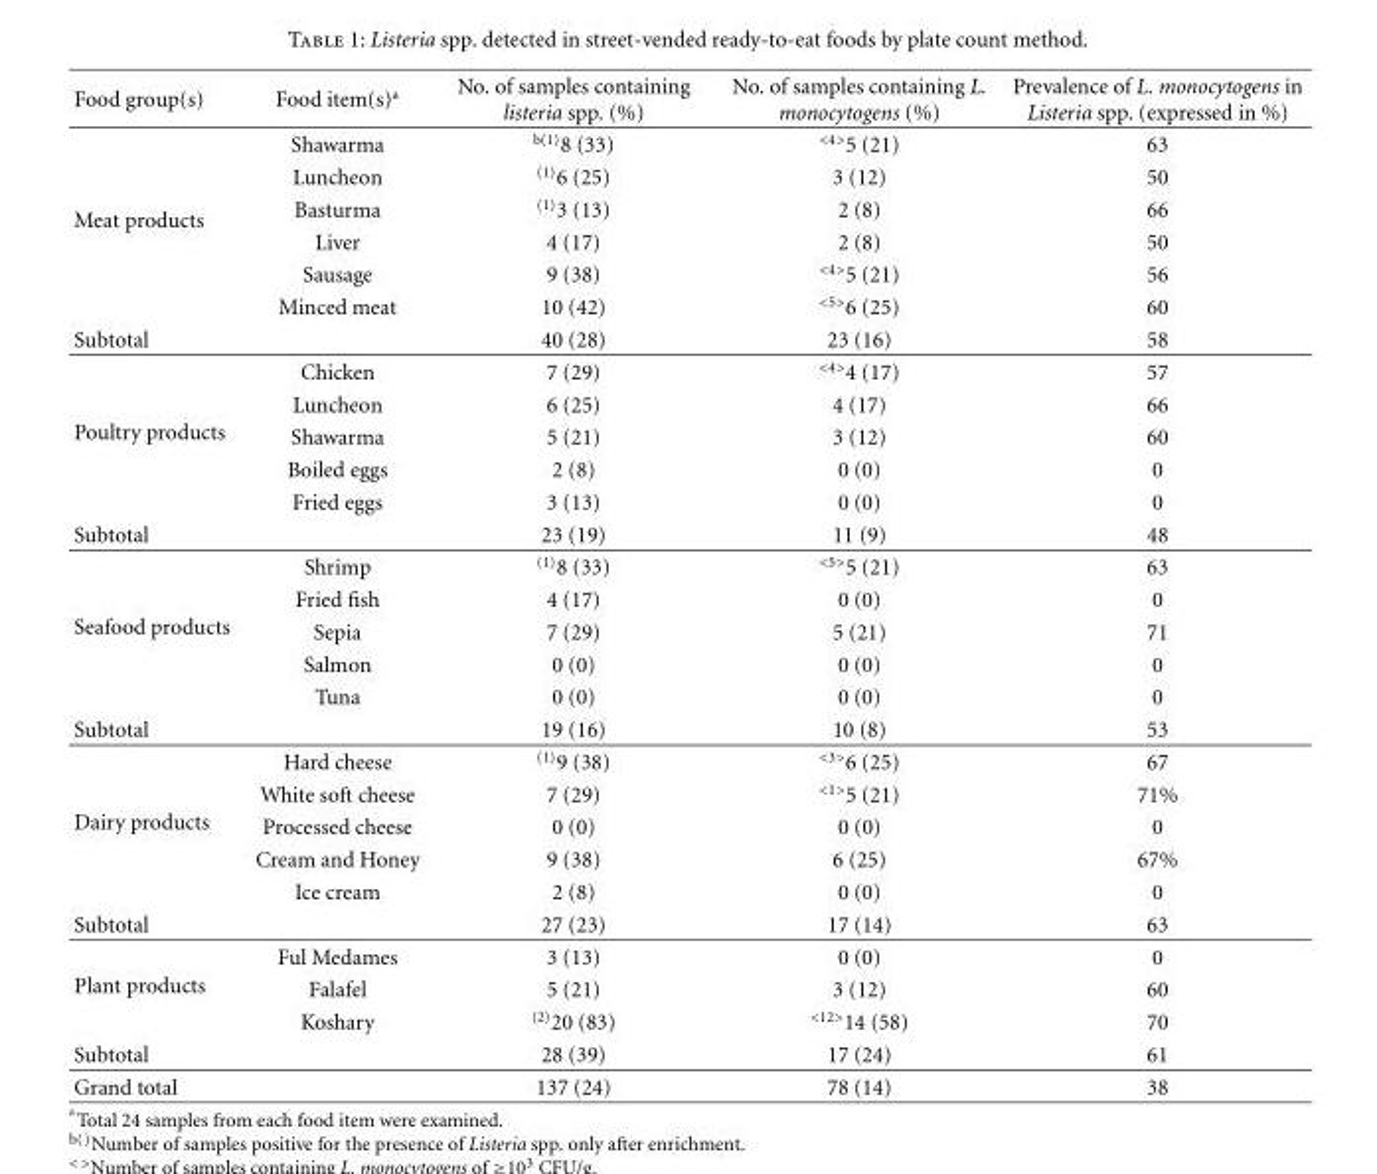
<table><thead><tr><td>Food group(s)</td><td>Food item(s)<sup>a</sup></td><td>No. of samples containing listeria spp. (%)</td><td>No. of samples containing L. monocytogens (%)</td><td>Prevalence of L. monocytogens in Listeria spp. (expressed in %)</td></tr></thead><tbody><tr><td rowspan="6">Meat products</td><td>Shawarma</td><td><sup>b(1)</sup>8 (33)</td><td><sup>&lt;4&gt;</sup>5 (21)</td><td>63</td></tr><tr><td>Luncheon</td><td><sup>(1)</sup>6 (25)</td><td>3 (12)</td><td>50</td></tr><tr><td>Basturma</td><td><sup>(1)</sup>3 (13)</td><td>2 (8)</td><td>66</td></tr><tr><td>Liver</td><td>4 (17)</td><td>2 (8)</td><td>50</td></tr><tr><td>Sausage</td><td>9 (38)</td><td><sup>&lt;4&gt;</sup>5 (21)</td><td>56</td></tr><tr><td>Minced meat</td><td>10 (42)</td><td><sup>&lt;5&gt;</sup>6 (25)</td><td>60</td></tr><tr><td>Subtotal</td><td></td><td>40 (28)</td><td>23 (16)</td><td>58</td></tr><tr><td rowspan="5">Poultry products</td><td>Chicken</td><td>7 (29)</td><td><sup>&lt;4&gt;</sup>4 (17)</td><td>57</td></tr><tr><td>Luncheon</td><td>6 (25)</td><td>4 (17)</td><td>66</td></tr><tr><td>Shawarma</td><td>5 (21)</td><td>3 (12)</td><td>60</td></tr><tr><td>Boiled eggs</td><td>2 (8)</td><td>0 (0)</td><td>0</td></tr><tr><td>Fried eggs</td><td>3 (13)</td><td>0 (0)</td><td>0</td></tr><tr><td>Subtotal</td><td></td><td>23 (19)</td><td>11 (9)</td><td>48</td></tr><tr><td rowspan="5">Seafood products</td><td>Shrimp</td><td><sup>(1)</sup>8 (33)</td><td><sup>&lt;5&gt;</sup>5 (21)</td><td>63</td></tr><tr><td>Fried fish</td><td>4 (17)</td><td>0 (0)</td><td>0</td></tr><tr><td>Sepia</td><td>7 (29)</td><td>5 (21)</td><td>71</td></tr><tr><td>Salmon</td><td>0 (0)</td><td>0 (0)</td><td>0</td></tr><tr><td>Tuna</td><td>0 (0)</td><td>0 (0)</td><td>0</td></tr><tr><td>Subtotal</td><td></td><td>19 (16)</td><td>10 (8)</td><td>53</td></tr><tr><td rowspan="5">Dairy products</td><td>Hard cheese</td><td><sup>(1)</sup>9 (38)</td><td><sup>&lt;3&gt;</sup>6 (25)</td><td>67</td></tr><tr><td>White soft cheese</td><td>7 (29)</td><td><sup>&lt;1&gt;</sup>5 (21)</td><td>71%</td></tr><tr><td>Processed cheese</td><td>0 (0)</td><td>0 (0)</td><td>0</td></tr><tr><td>Cream and Honey</td><td>9 (38)</td><td>6 (25)</td><td>67%</td></tr><tr><td>Ice cream</td><td>2 (8)</td><td>0 (0)</td><td>0</td></tr><tr><td>Subtotal</td><td></td><td>27 (23)</td><td>17 (14)</td><td>63</td></tr><tr><td rowspan="3">Plant products</td><td>Ful Medames</td><td>3 (13)</td><td>0 (0)</td><td>0</td></tr><tr><td>Falafel</td><td>5 (21)</td><td>3 (12)</td><td>60</td></tr><tr><td>Koshary</td><td><sup>(2)</sup>20 (83)</td><td><sup>&lt;12&gt;</sup>14 (58)</td><td>70</td></tr><tr><td>Subtotal</td><td></td><td>28 (39)</td><td>17 (24)</td><td>61</td></tr><tr><td>Grand total</td><td></td><td>137 (24)</td><td>78 (14)</td><td>38</td></tr></tbody></table>